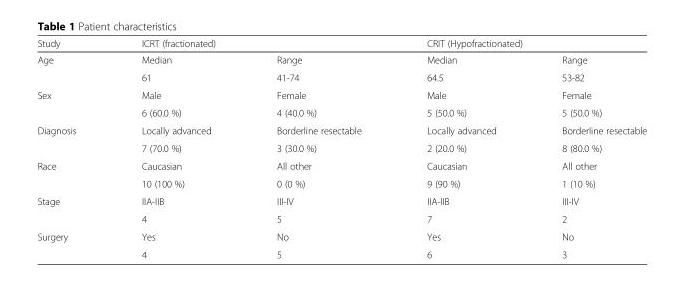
<table><thead><tr><td rowspan="2">Study Age</td><td colspan="2">ICRT (fractionated)</td><td colspan="2">CRIT (Hypofractionated)</td></tr><tr><td>Median</td><td>Range</td><td>Median</td><td>Range</td></tr></thead><tbody><tr><td></td><td>61</td><td>41-74</td><td>64.5</td><td>53-82</td></tr><tr><td rowspan="2">Sex</td><td>Male</td><td>Female</td><td>Male</td><td>Female</td></tr><tr><td>6 (60.0 %)</td><td>4 (40.0 %)</td><td>5 (50.0 %)</td><td>5 (50.0 %)</td></tr><tr><td rowspan="2">Diagnosis</td><td>Locally advanced</td><td>Borderline resectable</td><td>Locally advanced</td><td>Borderline resectable</td></tr><tr><td>7 (70.0 %)</td><td>3 (30.0 %)</td><td>2 (20.0 %)</td><td>8 (80.0 %)</td></tr><tr><td rowspan="2">Race</td><td>Caucasian</td><td>All other</td><td>Caucasian</td><td>All other</td></tr><tr><td>10 (100 %)</td><td>0 (0 %)</td><td>9 (90 %)</td><td>1 (10 %)</td></tr><tr><td rowspan="2">Stage</td><td>IIA-IIB</td><td>III-IV</td><td>IIA-IIB</td><td>III-IV</td></tr><tr><td>4</td><td>5</td><td>7</td><td>2</td></tr><tr><td rowspan="2">Surgery</td><td>Yes</td><td>No</td><td>Yes</td><td>No</td></tr><tr><td>4</td><td>5</td><td>6</td><td>3</td></tr></tbody></table>